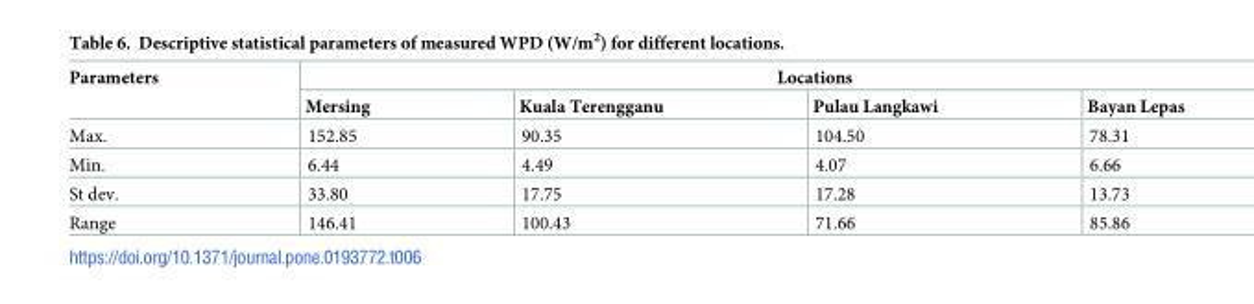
<table><thead><tr><td rowspan="2">Parameters</td><td colspan="4">Locations</td></tr><tr><td>Mersing</td><td>Kuala Terengganu</td><td>Pulau Langkawi</td><td>Bayan Lepas</td></tr></thead><tbody><tr><td>Max.</td><td>152.85</td><td>90.35</td><td>104.50</td><td>78.31</td></tr><tr><td>Min.</td><td>6.44</td><td>4.49</td><td>4.07</td><td>6.66</td></tr><tr><td>St dev.</td><td>33.80</td><td>17.75</td><td>17.28</td><td>13.73</td></tr><tr><td>Range</td><td>146.41</td><td>100.43</td><td>71.66</td><td>85.86</td></tr></tbody></table>